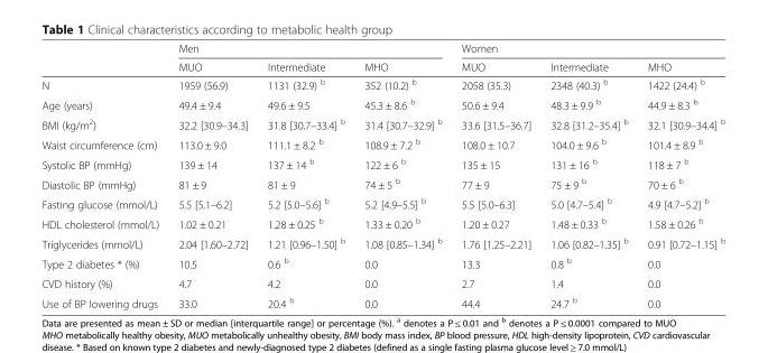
<table><thead><tr><td rowspan="2"></td><td colspan="3">Men</td><td colspan="3">Women</td></tr><tr><td>MUO</td><td>Intermediate</td><td>MHO</td><td>MUO</td><td>Intermediate</td><td>MHO</td></tr></thead><tbody><tr><td>N</td><td>1959 (56.9)</td><td>1131 (32.9) <sup>b</sup></td><td>352 (10.2) <sup>b</sup></td><td>2058 (35.3)</td><td>2348 (40.3) <sup>b</sup></td><td>1422 (24.4) <sup>b</sup></td></tr><tr><td>Age (years)</td><td>49.4 ± 9.4</td><td>49.6 ± 9.5</td><td>45.3 ± 8.6 <sup>b</sup></td><td>50.6 ± 9.4</td><td>48.3 ± 9.9 <sup>b</sup></td><td>44.9 ± 8.3 <sup>b</sup></td></tr><tr><td>BMI (kg/m<sup>2</sup>)</td><td>32.2 [30.9–34.3]</td><td>31.8 [30.7–33.4] <sup>b</sup></td><td>31.4 [30.7–32.9] <sup>b</sup></td><td>33.6 [31.5–36.7]</td><td>32.8 [31.2–35.4] <sup>b</sup></td><td>32.1 [30.9–34.4] <sup>b</sup></td></tr><tr><td>Waist circumference (cm)</td><td>113.0 ± 9.0</td><td>111.1 ± 8.2 <sup>b</sup></td><td>108.9 ± 7.2 <sup>b</sup></td><td>108.0 ± 10.7</td><td>104.0 ± 9.6 <sup>b</sup></td><td>101.4 ± 8.9 <sup>b</sup></td></tr><tr><td>Systolic BP (mmHg)</td><td>139 ± 14</td><td>137 ± 14 <sup>b</sup></td><td>122 ± 6 <sup>b</sup></td><td>135 ± 15</td><td>131 ± 16 <sup>b</sup></td><td>118 ± 7 <sup>b</sup></td></tr><tr><td>Diastolic BP (mmHg)</td><td>81 ± 9</td><td>81 ± 9</td><td>74 ± 5 <sup>b</sup></td><td>77 ± 9</td><td>75 ± 9 <sup>b</sup></td><td>70 ± 6 <sup>b</sup></td></tr><tr><td>Fasting glucose (mmol/L)</td><td>5.5 [5.1–6.2]</td><td>5.2 [5.0–5.6] <sup>b</sup></td><td>5.2 [4.9–5.5] <sup>b</sup></td><td>5.5 [5.0–6.3]</td><td>5.0 [4.7–5.4] <sup>b</sup></td><td>4.9 [4.7–5.2] <sup>b</sup></td></tr><tr><td>HDL cholesterol (mmol/L)</td><td>1.02 ± 0.21</td><td>1.28 ± 0.25 <sup>b</sup></td><td>1.33 ± 0.20 <sup>b</sup></td><td>1.20 ± 0.27</td><td>1.48 ± 0.33 <sup>b</sup></td><td>1.58 ± 0.26 <sup>b</sup></td></tr><tr><td>Triglycerides (mmol/L)</td><td>2.04 [1.60–2.72]</td><td>1.21 [0.96–1.50] <sup>b</sup></td><td>1.08 [0.85–1.34] <sup>b</sup></td><td>1.76 [1.25–2.21]</td><td>1.06 [0.82–1.35] <sup>b</sup></td><td>0.91 [0.72–1.15] <sup>b</sup></td></tr><tr><td>Type 2 diabetes * (%)</td><td>10.5</td><td>0.6 <sup>b</sup></td><td>0.0</td><td>13.3</td><td>0.8 <sup>b</sup></td><td>0.0</td></tr><tr><td>CVD history (%)</td><td>4.7</td><td>4.2</td><td>0.0</td><td>2.7</td><td>1.4</td><td>0.0</td></tr><tr><td>Use of BP lowering drugs</td><td>33.0</td><td>20.4 <sup>b</sup></td><td>0.0</td><td>44.4</td><td>24.7 <sup>b</sup></td><td>0.0</td></tr></tbody></table>